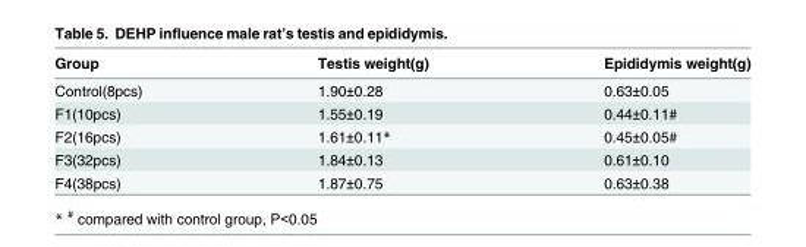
<table><thead><tr><td>Group</td><td>Testis weight(g)</td><td>Epididymis weight(g)</td></tr></thead><tbody><tr><td>Control(8pcs)</td><td>1.90±0.28</td><td>0.63±0.05</td></tr><tr><td>F1(10pcs)</td><td>1.55±0.19</td><td>0.44±0.11#</td></tr><tr><td>F2(16pcs)</td><td>1.61±0.11*</td><td>0.45±0.05#</td></tr><tr><td>F3(32pcs)</td><td>1.84±0.13</td><td>0.61±0.10</td></tr><tr><td>F4(38pcs)</td><td>1.87±0.75</td><td>0.63±0.38</td></tr></tbody></table>